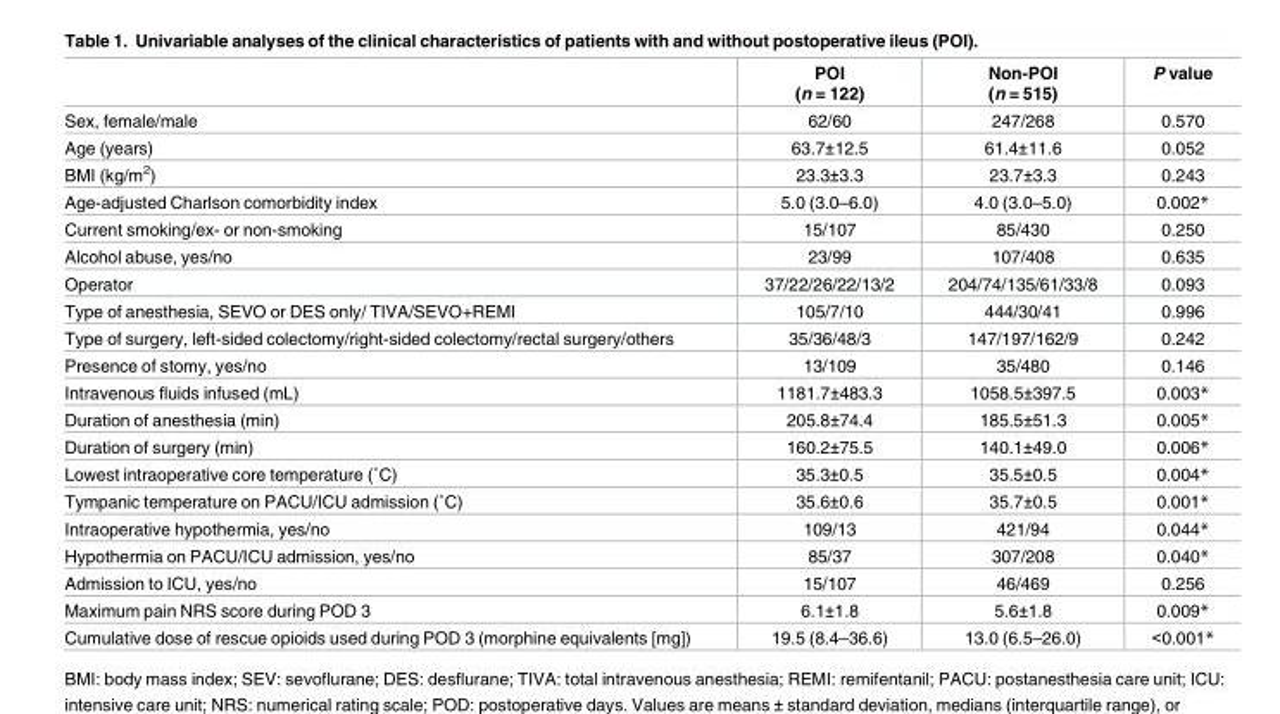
<table><thead><tr><td></td><td>POI (n = 122)</td><td>Non-POI (n = 515)</td><td>P value</td></tr></thead><tbody><tr><td>Sex, female/male</td><td>62/60</td><td>247/268</td><td>0.570</td></tr><tr><td>Age (years)</td><td>63.7±12.5</td><td>61.4±11.6</td><td>0.052</td></tr><tr><td>BMI (kg/m<sup>2</sup>)</td><td>23.3±3.3</td><td>23.7±3.3</td><td>0.243</td></tr><tr><td>Age-adjusted Charlson comorbidity index</td><td>5.0 (3.0–6.0)</td><td>4.0 (3.0–5.0)</td><td>0.002*</td></tr><tr><td>Current smoking/ex- or non-smoking</td><td>15/107</td><td>85/430</td><td>0.250</td></tr><tr><td>Alcohol abuse, yes/no</td><td>23/99</td><td>107/408</td><td>0.635</td></tr><tr><td>Operator</td><td>37/22/26/22/13/2</td><td>204/74/135/61/33/8</td><td>0.093</td></tr><tr><td>Type of anesthesia, SEVO or DES only/ TIVA/SEVO+REMI</td><td>105/7/10</td><td>444/30/41</td><td>0.996</td></tr><tr><td>Type of surgery, left-sided colectomy/right-sided colectomy/rectal surgery/others</td><td>35/36/48/3</td><td>147/197/162/9</td><td>0.242</td></tr><tr><td>Presence of stomy, yes/no</td><td>13/109</td><td>35/480</td><td>0.146</td></tr><tr><td>Intravenous fluids infused (mL)</td><td>1181.7±483.3</td><td>1058.5±397.5</td><td>0.003*</td></tr><tr><td>Duration of anesthesia (min)</td><td>205.8±74.4</td><td>185.5±51.3</td><td>0.005*</td></tr><tr><td>Duration of surgery (min)</td><td>160.2±75.5</td><td>140.1±49.0</td><td>0.006*</td></tr><tr><td>Lowest intraoperative core temperature (˚C)</td><td>35.3±0.5</td><td>35.5±0.5</td><td>0.004*</td></tr><tr><td>Tympanic temperature on PACU/ICU admission (˚C)</td><td>35.6±0.6</td><td>35.7±0.5</td><td>0.001*</td></tr><tr><td>Intraoperative hypothermia, yes/no</td><td>109/13</td><td>421/94</td><td>0.044*</td></tr><tr><td>Hypothermia on PACU/ICU admission, yes/no</td><td>85/37</td><td>307/208</td><td>0.040*</td></tr><tr><td>Admission to ICU, yes/no</td><td>15/107</td><td>46/469</td><td>0.256</td></tr><tr><td>Maximum pain NRS score during POD 3</td><td>6.1±1.8</td><td>5.6±1.8</td><td>0.009*</td></tr><tr><td>Cumulative dose of rescue opioids used during POD 3 (morphine equivalents [mg])</td><td>19.5 (8.4–36.6)</td><td>13.0 (6.5–26.0)</td><td>&lt;0.001*</td></tr></tbody></table>